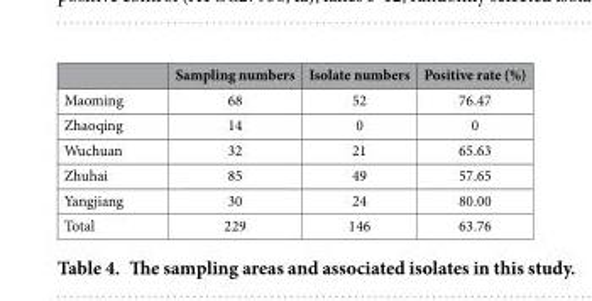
<table><thead><tr><td></td><td>Sampling numbers</td><td>Isolate numbers</td><td>Positive rate (%)</td></tr></thead><tbody><tr><td>Maoming</td><td>68</td><td>52</td><td>76.47</td></tr><tr><td>Zhaoqing</td><td>14</td><td>0</td><td>0</td></tr><tr><td>Wuchuan</td><td>32</td><td>21</td><td>65.63</td></tr><tr><td>Zhuhai</td><td>85</td><td>49</td><td>57.65</td></tr><tr><td>Yangjiang</td><td>30</td><td>24</td><td>80.00</td></tr><tr><td>Total</td><td>229</td><td>146</td><td>63.76</td></tr></tbody></table>